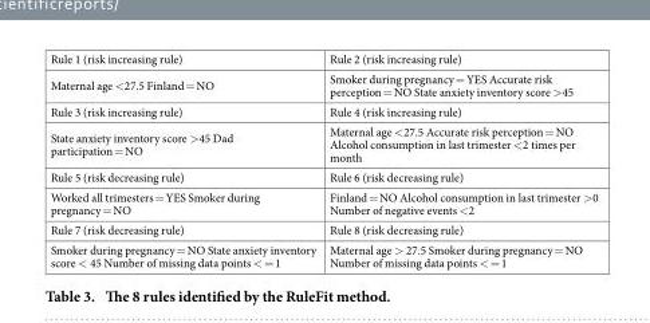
<table><tbody><tr><td>Rule 1 (risk increasing rule)</td><td>Rule 2 (risk increasing rule)</td></tr><tr><td>Maternal age &lt; 27.5 Finland = NO</td><td>Smoker during pregnancy = YES Accurate risk perception = NO State anxiety inventory score &gt; 45</td></tr><tr><td>Rule 3 (risk increasing rule)</td><td>Rule 4 (risk increasing rule)</td></tr><tr><td>State anxiety inventory score &gt; 45 Dad participation = NO</td><td>Maternal age &lt; 27.5 Accurate risk perception = NO Alcohol consumption in last trimester &lt; 2 times per month</td></tr><tr><td>Rule 5 (risk decreasing rule)</td><td>Rule 6 (risk decreasing rule)</td></tr><tr><td>Worked all trimesters = YES Smoker during pregnancy = NO</td><td>Finland = NO Alcohol consumption in last trimester &gt; 0 Number of negative events &lt; 2</td></tr><tr><td>Rule 7 (risk decreasing rule)</td><td>Rule 8 (risk decreasing rule)</td></tr><tr><td>Smoker during pregnancy = NO State anxiety inventory score &lt; 45 Number of missing data points &lt; = 1</td><td>Maternal age &gt; 27.5 Smoker during pregnancy = NO Number of missing data points &lt; = 1</td></tr></tbody></table>